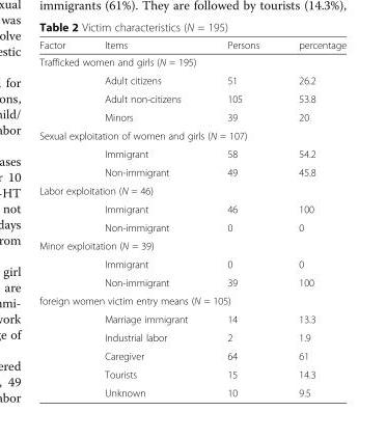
<table><thead><tr><td>Factor</td><td>Items</td><td>Persons</td><td>percentage</td></tr></thead><tbody><tr><td colspan="4">Trafficked women and girls (N = 195)</td></tr><tr><td rowspan="3"></td><td>Adult citizens</td><td>51</td><td>26.2</td></tr><tr><td>Adult non-citizens</td><td>105</td><td>53.8</td></tr><tr><td>Minors</td><td>39</td><td>20</td></tr><tr><td colspan="4">Sexual exploitation of women and girls (N = 107)</td></tr><tr><td rowspan="2"></td><td>Immigrant</td><td>58</td><td>54.2</td></tr><tr><td>Non-immigrant</td><td>49</td><td>45.8</td></tr><tr><td colspan="4">Labor exploitation (N = 46)</td></tr><tr><td rowspan="2"></td><td>Immigrant</td><td>46</td><td>100</td></tr><tr><td>Non-immigrant</td><td>0</td><td>0</td></tr><tr><td colspan="4">Minor exploitation (N = 39)</td></tr><tr><td rowspan="2"></td><td>Immigrant</td><td>0</td><td>0</td></tr><tr><td>Non-immigrant</td><td>39</td><td>100</td></tr><tr><td colspan="4">foreign women victim entry means (N = 105)</td></tr><tr><td rowspan="5"></td><td>Marriage immigrant</td><td>14</td><td>13.3</td></tr><tr><td>Industrial labor</td><td>2</td><td>1.9</td></tr><tr><td>Caregiver</td><td>64</td><td>61</td></tr><tr><td>Tourists</td><td>15</td><td>14.3</td></tr><tr><td>Unknown</td><td>10</td><td>9.5</td></tr></tbody></table>